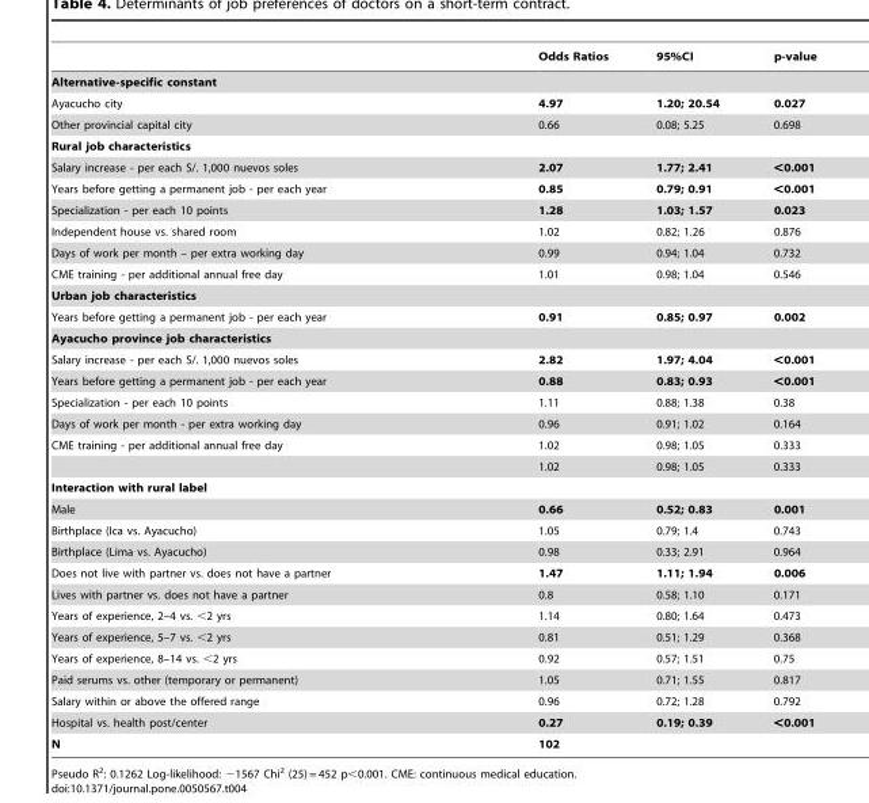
<table><thead><tr><td></td><td>Odds Ratios</td><td>95%CI</td><td>p-value</td></tr></thead><tbody><tr><td colspan="4">Alternative-specific constant</td></tr><tr><td>Ayacucho city</td><td>4.97</td><td>1.20; 20.54</td><td>0.027</td></tr><tr><td>Other provincial capital city</td><td>0.66</td><td>0.08; 5.25</td><td>0.698</td></tr><tr><td colspan="4">Rural job characteristics</td></tr><tr><td>Salary increase - per each S/. 1,000 nuevos soles</td><td>2.07</td><td>1.77; 2.41</td><td>&lt;0.001</td></tr><tr><td>Years before getting a permanent job - per each year</td><td>0.85</td><td>0.79; 0.91</td><td>&lt;0.001</td></tr><tr><td>Specialization - per each 10 points</td><td>1.28</td><td>1.03; 1.57</td><td>0.023</td></tr><tr><td>Independent house vs. shared room</td><td>1.02</td><td>0.82; 1.26</td><td>0.876</td></tr><tr><td>Days of work per month – per extra working day</td><td>0.99</td><td>0.94; 1.04</td><td>0.732</td></tr><tr><td>CME training - per additional annual free day</td><td>1.01</td><td>0.98; 1.04</td><td>0.546</td></tr><tr><td colspan="4">Urban job characteristics</td></tr><tr><td>Years before getting a permanent job - per each year</td><td>0.91</td><td>0.85; 0.97</td><td>0.002</td></tr><tr><td colspan="4">Ayacucho province job characteristics</td></tr><tr><td>Salary increase - per each S/. 1,000 nuevos soles</td><td>2.82</td><td>1.97; 4.04</td><td>&lt;0.001</td></tr><tr><td>Years before getting a permanent job - per each year</td><td>0.88</td><td>0.83; 0.93</td><td>&lt;0.001</td></tr><tr><td>Specialization - per each 10 points</td><td>1.11</td><td>0.88; 1.38</td><td>0.38</td></tr><tr><td>Days of work per month - per extra working day</td><td>0.96</td><td>0.91; 1.02</td><td>0.164</td></tr><tr><td rowspan="2">CME training - per additional annual free day</td><td>1.02</td><td>0.98; 1.05</td><td>0.333</td></tr><tr><td>1.02</td><td>0.98; 1.05</td><td>0.333</td></tr><tr><td colspan="4">Interaction with rural label</td></tr><tr><td>Male</td><td>0.66</td><td>0.52; 0.83</td><td>0.001</td></tr><tr><td>Birthplace (Ica vs. Ayacucho)</td><td>1.05</td><td>0.79; 1.4</td><td>0.743</td></tr><tr><td>Birthplace (Lima vs. Ayacucho)</td><td>0.98</td><td>0.33; 2.91</td><td>0.964</td></tr><tr><td>Does not live with partner vs. does not have a partner</td><td>1.47</td><td>1.11; 1.94</td><td>0.006</td></tr><tr><td>Lives with partner vs. does not have a partner</td><td>0.8</td><td>0.58; 1.10</td><td>0.171</td></tr><tr><td>Years of experience, 2–4 vs. &lt;2 yrs</td><td>1.14</td><td>0.80; 1.64</td><td>0.473</td></tr><tr><td>Years of experience, 5–7 vs. &lt;2 yrs</td><td>0.81</td><td>0.51; 1.29</td><td>0.368</td></tr><tr><td>Years of experience, 8–14 vs. &lt;2 yrs</td><td>0.92</td><td>0.57; 1.51</td><td>0.75</td></tr><tr><td>Paid serums vs. other (temporary or permanent)</td><td>1.05</td><td>0.71; 1.55</td><td>0.817</td></tr><tr><td>Salary within or above the offered range</td><td>0.96</td><td>0.72; 1.28</td><td>0.792</td></tr><tr><td>Hospital vs. health post/center</td><td>0.27</td><td>0.19; 0.39</td><td>&lt;0.001</td></tr><tr><td>N</td><td>102</td><td></td><td></td></tr></tbody></table>